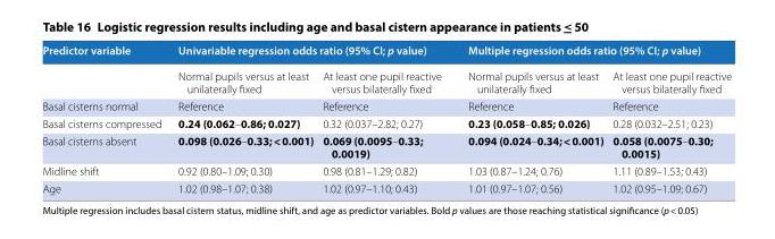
<table><thead><tr><td rowspan="2">Predictor variable</td><td colspan="2">Univariable regression odds ratio (95% CI; p value)</td><td colspan="2">Multiple regression odds ratio (95% CI; p value)</td></tr><tr><td>Normal pupils versus at least unilaterally fixed</td><td>At least one pupil reactive versus bilaterally fixed</td><td>Normal pupils versus at least unilaterally fixed</td><td>At least one pupil reactive versus bilaterally fixed</td></tr></thead><tbody><tr><td>Basal cisterns normal</td><td>Reference</td><td>Reference</td><td>Reference</td><td>Reference</td></tr><tr><td>Basal cisterns compressed</td><td>0.24 (0.062–0.86; 0.027)</td><td>0.32 (0.037–2.82; 0.27)</td><td>0.23 (0.058–0.85; 0.026)</td><td>0.28 (0.032–2.51; 0.23)</td></tr><tr><td>Basal cisterns absent</td><td>0.098 (0.026–0.33; &lt; 0.001)</td><td>0.069 (0.0095–0.33; 0.0019)</td><td>0.094 (0.024–0.34; &lt; 0.001)</td><td>0.058 (0.0075–0.30; 0.0015)</td></tr><tr><td>Midline shift</td><td>0.92 (0.80–1.09; 0.30)</td><td>0.98 (0.81–1.29; 0.82)</td><td>1.03 (0.87–1.24; 0.76)</td><td>1.11 (0.89–1.53; 0.43)</td></tr><tr><td>Age</td><td>1.02 (0.98–1.07; 0.38)</td><td>1.02 (0.97–1.10; 0.43)</td><td>1.01 (0.97–1.07; 0.56)</td><td>1.02 (0.95–1.09; 0.67)</td></tr></tbody></table>